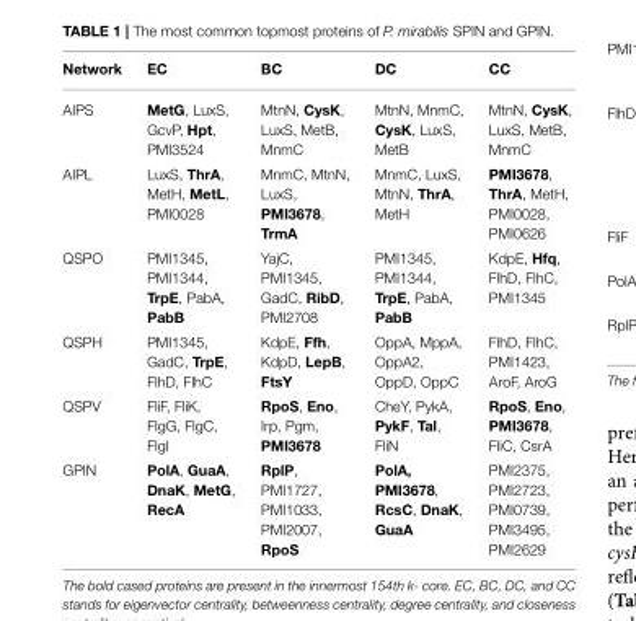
<table><thead><tr><td>Network</td><td>EC</td><td>BC</td><td>DC</td><td>CC</td></tr></thead><tbody><tr><td>AIPS</td><td>MetG, LuxS, GcvP, Hpt, PMI3524</td><td>MtnN, CysK, LuxS, MetB, MnmC</td><td>MtnN, MnmC, CysK, LuxS, MetB</td><td>MtnN, CysK, LuxS, MetB, MnmC</td></tr><tr><td>AIPL</td><td>LuxS, ThrA, MetH, MetL, PMI0028</td><td>MnmC, MtnN, LuxS, PMI3678, TrmA</td><td>MnmC, LuxS, MtnN, ThrA, MetH</td><td>PMI3678, ThrA, MetH, PMI0028, PMI0626</td></tr><tr><td>QSPO</td><td>PMI1345, PMI1344, TrpE, PabA, PabB</td><td>YajC, PMI1345, GadC, RibD, PMI2708</td><td>PMI1345, PMI1344, TrpE, PabA, PabB</td><td>KdpE, Hfq, FlhD, FlhC, PMI1345</td></tr><tr><td>QSPH</td><td>PMI1345, GadC, TrpE, FlhD, FlhC</td><td>KdpE, Ffh, KdpD, LepB, FtsY</td><td>OppA, MppA, OppA2, OppD, OppC</td><td>FlhD, FlhC, PMI1423, AroF, AroG</td></tr><tr><td>QSPV</td><td>FliF, FliK, FlgG, FlgC, FlgI</td><td>RpoS, Eno, Irp, Pgm, PMI3678</td><td>CheY, PykA, PykF, Tal, FliN</td><td>RpoS, Eno, PMI3678, FliC, CsrA</td></tr><tr><td>GPIN</td><td>PolA, GuaA, DnaK, MetG, RecA</td><td>RplP, PMI1727, PMI1033, PMI2007, RpoS</td><td>PolA, PMI3678, RcsC, DnaK, GuaA</td><td>PMI2375, PMI2723, PMI0739, PMI3495, PMI2629</td></tr></tbody></table>